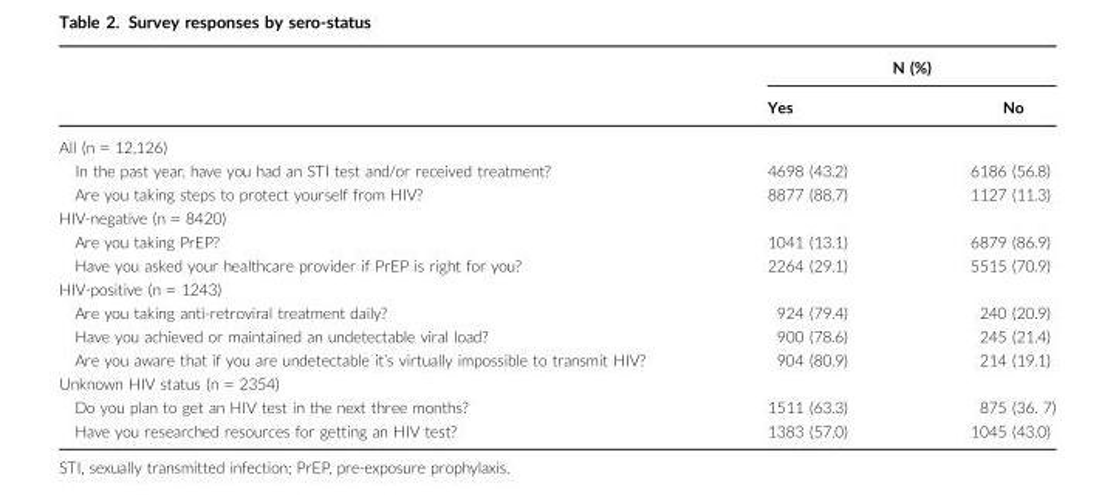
<table><thead><tr><td rowspan="2"></td><td colspan="2">N (%)</td></tr><tr><td>Yes</td><td>No</td></tr></thead><tbody><tr><td colspan="3">All (n = 12,126)</td></tr><tr><td>In the past year, have you had an STI test and/or received treatment?</td><td>4698 (43.2)</td><td>6186 (56.8)</td></tr><tr><td>Are you taking steps to protect yourself from HIV?</td><td>8877 (88.7)</td><td>1127 (11.3)</td></tr><tr><td colspan="3">HIV-negative (n = 8420)</td></tr><tr><td>Are you taking PrEP?</td><td>1041 (13.1)</td><td>6879 (86.9)</td></tr><tr><td>Have you asked your healthcare provider if PrEP is right for you?</td><td>2264 (29.1)</td><td>5515 (70.9)</td></tr><tr><td colspan="3">HIV-positive (n = 1243)</td></tr><tr><td>Are you taking anti-retroviral treatment daily?</td><td>924 (79.4)</td><td>240 (20.9)</td></tr><tr><td>Have you achieved or maintained an undetectable viral load?</td><td>900 (78.6)</td><td>245 (21.4)</td></tr><tr><td>Are you aware that if you are undetectable it’s virtually impossible to transmit HIV?</td><td>904 (80.9)</td><td>214 (19.1)</td></tr><tr><td colspan="3">Unknown HIV status (n = 2354)</td></tr><tr><td>Do you plan to get an HIV test in the next three months?</td><td>1511 (63.3)</td><td>875 (36. 7)</td></tr><tr><td>Have you researched resources for getting an HIV test?</td><td>1383 (57.0)</td><td>1045 (43.0)</td></tr></tbody></table>